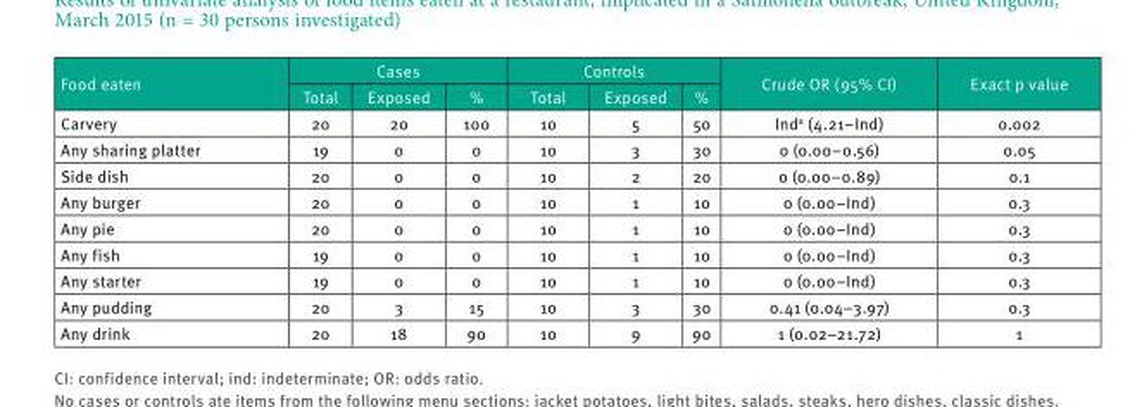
<table><thead><tr><td rowspan="2">Food eaten</td><td colspan="3">Cases</td><td colspan="3">Controls</td><td rowspan="2">Crude OR (95% CI)</td><td rowspan="2">Exact p value</td></tr><tr><td>Total</td><td>Exposed</td><td>%</td><td>Total</td><td>Exposed</td><td>%</td></tr></thead><tbody><tr><td>Carvery</td><td>20</td><td>20</td><td>100</td><td>10</td><td>5</td><td>50</td><td>Ind<sup>a</sup> (4.21–Ind)</td><td>0.002</td></tr><tr><td>Any sharing platter</td><td>19</td><td>0</td><td>0</td><td>10</td><td>3</td><td>30</td><td>0 (0.00–0.56)</td><td>0.05</td></tr><tr><td>Side dish</td><td>20</td><td>0</td><td>0</td><td>10</td><td>2</td><td>20</td><td>0 (0.00–0.89)</td><td>0.1</td></tr><tr><td>Any burger</td><td>20</td><td>0</td><td>0</td><td>10</td><td>1</td><td>10</td><td>0 (0.00–Ind)</td><td>0.3</td></tr><tr><td>Any pie</td><td>20</td><td>0</td><td>0</td><td>10</td><td>1</td><td>10</td><td>0 (0.00–Ind)</td><td>0.3</td></tr><tr><td>Any fish</td><td>19</td><td>0</td><td>0</td><td>10</td><td>1</td><td>10</td><td>0 (0.00–Ind)</td><td>0.3</td></tr><tr><td>Any starter</td><td>19</td><td>0</td><td>0</td><td>10</td><td>1</td><td>10</td><td>0 (0.00–Ind)</td><td>0.3</td></tr><tr><td>Any pudding</td><td>20</td><td>3</td><td>15</td><td>10</td><td>3</td><td>30</td><td>0.41 (0.04–3.97)</td><td>0.3</td></tr><tr><td>Any drink</td><td>20</td><td>18</td><td>90</td><td>10</td><td>9</td><td>90</td><td>1 (0.02–21.72)</td><td>1</td></tr></tbody></table>